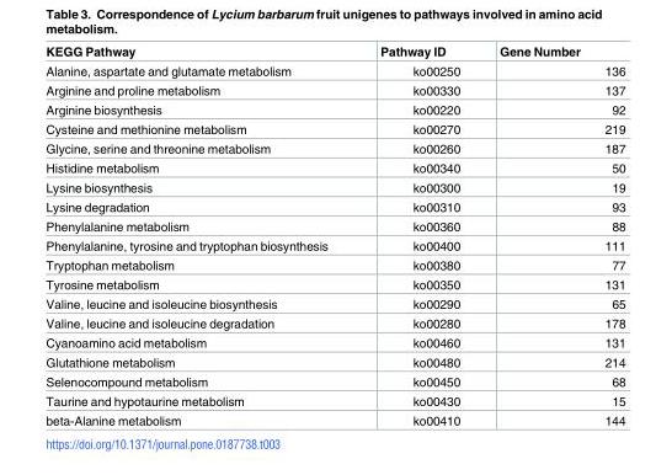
<table><thead><tr><td>KEGG Pathway</td><td>Pathway ID</td><td>Gene Number</td></tr></thead><tbody><tr><td>Alanine, aspartate and glutamate metabolism</td><td>ko00250</td><td>136</td></tr><tr><td>Arginine and proline metabolism</td><td>ko00330</td><td>137</td></tr><tr><td>Arginine biosynthesis</td><td>ko00220</td><td>92</td></tr><tr><td>Cysteine and methionine metabolism</td><td>ko00270</td><td>219</td></tr><tr><td>Glycine, serine and threonine metabolism</td><td>ko00260</td><td>187</td></tr><tr><td>Histidine metabolism</td><td>ko00340</td><td>50</td></tr><tr><td>Lysine biosynthesis</td><td>ko00300</td><td>19</td></tr><tr><td>Lysine degradation</td><td>ko00310</td><td>93</td></tr><tr><td>Phenylalanine metabolism</td><td>ko00360</td><td>88</td></tr><tr><td>Phenylalanine, tyrosine and tryptophan biosynthesis</td><td>ko00400</td><td>111</td></tr><tr><td>Tryptophan metabolism</td><td>ko00380</td><td>77</td></tr><tr><td>Tyrosine metabolism</td><td>ko00350</td><td>131</td></tr><tr><td>Valine, leucine and isoleucine biosynthesis</td><td>ko00290</td><td>65</td></tr><tr><td>Valine, leucine and isoleucine degradation</td><td>ko00280</td><td>178</td></tr><tr><td>Cyanoamino acid metabolism</td><td>ko00460</td><td>131</td></tr><tr><td>Glutathione metabolism</td><td>ko00480</td><td>214</td></tr><tr><td>Selenocompound metabolism</td><td>ko00450</td><td>68</td></tr><tr><td>Taurine and hypotaurine metabolism</td><td>ko00430</td><td>15</td></tr><tr><td>beta-Alanine metabolism</td><td>ko00410</td><td>144</td></tr></tbody></table>